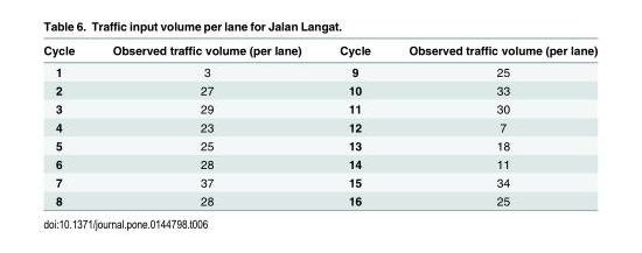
<table><thead><tr><td>Cycle</td><td>Observed traffic volume (per lane)</td><td>Cycle</td><td>Observed traffic volume (per lane)</td></tr></thead><tbody><tr><td>1</td><td>3</td><td>9</td><td>25</td></tr><tr><td>2</td><td>27</td><td>10</td><td>33</td></tr><tr><td>3</td><td>29</td><td>11</td><td>30</td></tr><tr><td>4</td><td>23</td><td>12</td><td>7</td></tr><tr><td>5</td><td>25</td><td>13</td><td>18</td></tr><tr><td>6</td><td>28</td><td>14</td><td>11</td></tr><tr><td>7</td><td>37</td><td>15</td><td>34</td></tr><tr><td>8</td><td>28</td><td>16</td><td>25</td></tr></tbody></table>